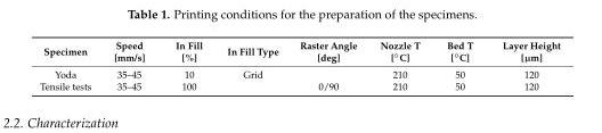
<table><thead><tr><td>Specimen</td><td>Speed [mm/s]</td><td>In Fill [%]</td><td>In Fill Type</td><td>Raster Angle [deg]</td><td>Nozzle T [◦C]</td><td>Bed T [◦C]</td><td>Layer Height [µm]</td></tr></thead><tbody><tr><td>Yoda</td><td>35–45</td><td>10</td><td>Grid</td><td></td><td>210</td><td>50</td><td>120</td></tr><tr><td>Tensile tests</td><td>35–45</td><td>100</td><td></td><td>0/90</td><td>210</td><td>50</td><td>120</td></tr></tbody></table>